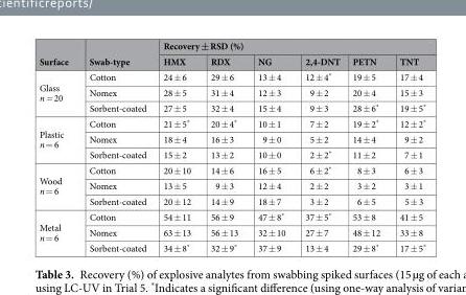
<table><thead><tr><td rowspan="2">Surface</td><td rowspan="2">Swab-type</td><td colspan="6">Recovery ± RSD (%)</td></tr><tr><td>HMX</td><td>RDX</td><td>NG</td><td>2,4-DNT</td><td>PETN</td><td>TNT</td></tr></thead><tbody><tr><td rowspan="3">Glass n = 20</td><td>Cotton</td><td>24 ± 6</td><td>29 ± 6</td><td>13 ± 4</td><td>12 ± 4*</td><td>19 ± 5</td><td>17 ± 4</td></tr><tr><td>Nomex</td><td>28 ± 5</td><td>31 ± 4</td><td>12 ± 3</td><td>9 ± 2</td><td>20 ± 4</td><td>15 ± 3</td></tr><tr><td>Sorbent-coated</td><td>27 ± 5</td><td>32 ± 4</td><td>15 ± 4</td><td>9 ± 3</td><td>28 ± 6*</td><td>19 ± 5*</td></tr><tr><td rowspan="3">Plastic n = 6</td><td>Cotton</td><td>21 ± 5*</td><td>20 ± 4*</td><td>10 ± 1</td><td>7 ± 2</td><td>19 ± 2*</td><td>12 ± 2*</td></tr><tr><td>Nomex</td><td>18 ± 4</td><td>16 ± 3</td><td>9 ± 0</td><td>5 ± 2</td><td>14 ± 4</td><td>9 ± 2</td></tr><tr><td>Sorbent-coated</td><td>15 ± 2</td><td>13 ± 2</td><td>10 ± 0</td><td>2 ± 2*</td><td>11 ± 2</td><td>7 ± 1</td></tr><tr><td rowspan="3">Wood n = 6</td><td>Cotton</td><td>20 ± 10</td><td>14 ± 6</td><td>16 ± 5</td><td>6 ± 2*</td><td>8 ± 3</td><td>6 ± 3</td></tr><tr><td>Nomex</td><td>13 ± 5</td><td>9 ± 3</td><td>12 ± 4</td><td>2 ± 2</td><td>3 ± 2</td><td>3 ± 1</td></tr><tr><td>Sorbent-coated</td><td>20 ± 12</td><td>14 ± 9</td><td>18 ± 7</td><td>3 ± 2</td><td>6 ± 5</td><td>5 ± 3</td></tr><tr><td rowspan="3">Metal n = 6</td><td>Cotton</td><td>54 ± 11</td><td>56 ± 9</td><td>47 ± 8*</td><td>37 ± 5*</td><td>53 ± 8</td><td>41 ± 5</td></tr><tr><td>Nomex</td><td>63 ± 13</td><td>56 ± 13</td><td>32 ± 10</td><td>27 ± 7</td><td>48 ± 12</td><td>33 ± 8</td></tr><tr><td>Sorbent-coated</td><td>34 ± 8*</td><td>32 ± 9*</td><td>37 ± 9</td><td>13 ± 4</td><td>29 ± 8*</td><td>17 ± 5*</td></tr></tbody></table>